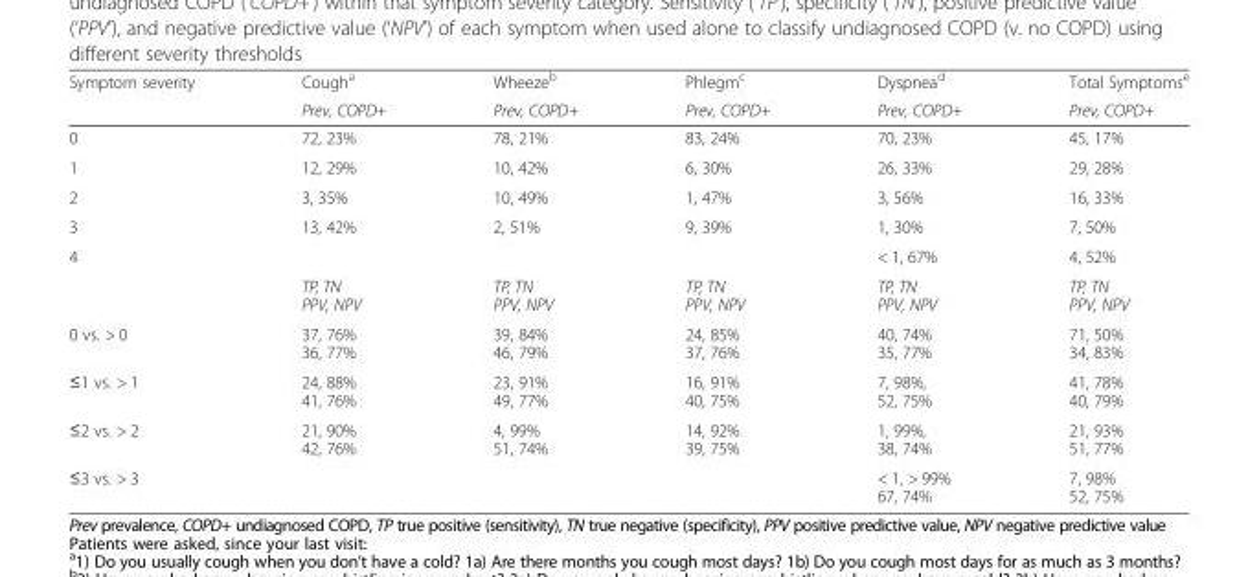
<table><thead><tr><td rowspan="2">Symptom severity</td><td rowspan="2">Cough<sup>a</sup> Prev, COPD+</td><td rowspan="2">Wheeze<sup>b</sup> Prev, COPD+</td><td rowspan="2">Phlegm<sup>c</sup> Prev, COPD+</td><td rowspan="2">Dyspnea<sup>d</sup> Prev, COPD+</td><td rowspan="2">Total Symptoms<sup>e</sup> Prev, COPD+</td></tr><tr></tr></thead><tbody><tr><td>0</td><td>72, 23%</td><td>78, 21%</td><td>83, 24%</td><td>70, 23%</td><td>45, 17%</td></tr><tr><td>1</td><td>12, 29%</td><td>10, 42%</td><td>6, 30%</td><td>26, 33%</td><td>29, 28%</td></tr><tr><td>2</td><td>3, 35%</td><td>10, 49%</td><td>1, 47%</td><td>3, 56%</td><td>16, 33%</td></tr><tr><td>3</td><td>13, 42%</td><td>2, 51%</td><td>9, 39%</td><td>1, 30%</td><td>7, 50%</td></tr><tr><td rowspan="2">4</td><td></td><td></td><td></td><td>&lt; 1, 67%</td><td>4, 52%</td></tr><tr><td>TP, TN PPV, NPV</td><td>TP, TN PPV, NPV</td><td>TP, TN PPV, NPV</td><td>TP, TN PPV, NPV</td><td>TP, TN PPV, NPV</td></tr><tr><td>0 vs. &gt; 0</td><td>37, 76% 36, 77%</td><td>39, 84% 46, 79%</td><td>24, 85% 37, 76%</td><td>40, 74% 35, 77%</td><td>71, 50% 34, 83%</td></tr><tr><td>≤1 vs. &gt; 1</td><td>24, 88% 41, 76%</td><td>23, 91% 49, 77%</td><td>16, 91% 40, 75%</td><td>7, 98%, 52, 75%</td><td>41, 78% 40, 79%</td></tr><tr><td>≤2 vs. &gt; 2</td><td>21, 90% 42, 76%</td><td>4, 99% 51, 74%</td><td>14, 92% 39, 75%</td><td>1, 99%, 38, 74%</td><td>21, 93% 51, 77%</td></tr><tr><td>≤3 vs. &gt; 3</td><td></td><td></td><td></td><td>&lt; 1, &gt; 99% 67, 74%</td><td>7, 98% 52, 75%</td></tr></tbody></table>